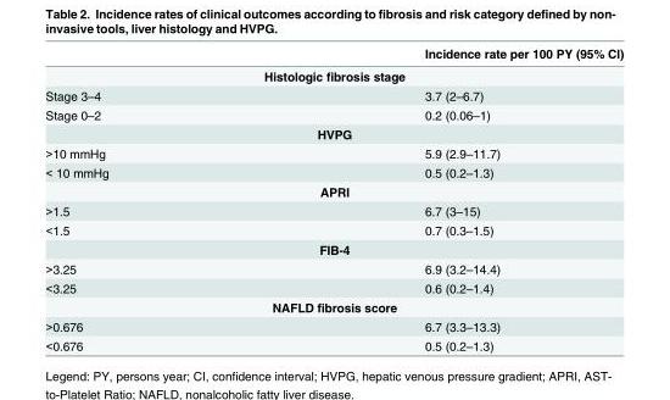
<table><thead><tr><td></td><td>Incidence rate per 100 PY (95% CI)</td></tr></thead><tbody><tr><td colspan="2">Histologic fibrosis stage</td></tr><tr><td>Stage 3–4</td><td>3.7 (2–6.7)</td></tr><tr><td>Stage 0–2</td><td>0.2 (0.06–1)</td></tr><tr><td colspan="2">HVPG</td></tr><tr><td>&gt;10 mmHg</td><td>5.9 (2.9–11.7)</td></tr><tr><td>&lt; 10 mmHg</td><td>0.5 (0.2–1.3)</td></tr><tr><td colspan="2">APRI</td></tr><tr><td>&gt;1.5</td><td>6.7 (3–15)</td></tr><tr><td>&lt;1.5</td><td>0.7 (0.3–1.5)</td></tr><tr><td colspan="2">FIB-4</td></tr><tr><td>&gt;3.25</td><td>6.9 (3.2–14.4)</td></tr><tr><td>&lt;3.25</td><td>0.6 (0.2–1.4)</td></tr><tr><td colspan="2">NAFLD fibrosis score</td></tr><tr><td>&gt;0.676</td><td>6.7 (3.3–13.3)</td></tr><tr><td>&lt;0.676</td><td>0.5 (0.2–1.3)</td></tr></tbody></table>